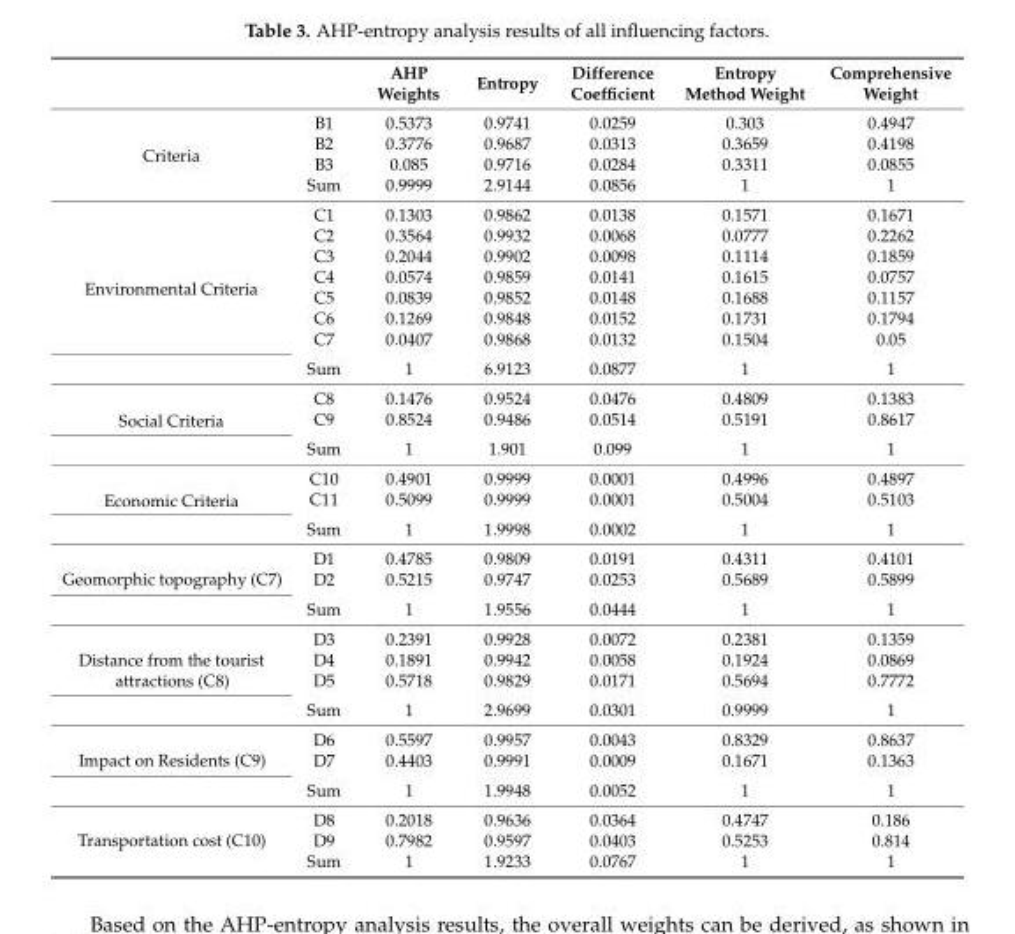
<table><thead><tr><td></td><td></td><td>AHP Weights</td><td>Entropy</td><td>Difference Coefficient</td><td>Entropy Method Weight</td><td>Comprehensive Weight</td></tr></thead><tbody><tr><td rowspan="4">Criteria</td><td>B1</td><td>0.5373</td><td>0.9741</td><td>0.0259</td><td>0.303</td><td>0.4947</td></tr><tr><td>B2</td><td>0.3776</td><td>0.9687</td><td>0.0313</td><td>0.3659</td><td>0.4198</td></tr><tr><td>B3</td><td>0.085</td><td>0.9716</td><td>0.0284</td><td>0.3311</td><td>0.0855</td></tr><tr><td>Sum</td><td>0.9999</td><td>2.9144</td><td>0.0856</td><td>1</td><td>1</td></tr><tr><td rowspan="8">Environmental Criteria</td><td>C1</td><td>0.1303</td><td>0.9862</td><td>0.0138</td><td>0.1571</td><td>0.1671</td></tr><tr><td>C2</td><td>0.3564</td><td>0.9932</td><td>0.0068</td><td>0.0777</td><td>0.2262</td></tr><tr><td>C3</td><td>0.2044</td><td>0.9902</td><td>0.0098</td><td>0.1114</td><td>0.1859</td></tr><tr><td>C4</td><td>0.0574</td><td>0.9859</td><td>0.0141</td><td>0.1615</td><td>0.0757</td></tr><tr><td>C5</td><td>0.0839</td><td>0.9852</td><td>0.0148</td><td>0.1688</td><td>0.1157</td></tr><tr><td>C6</td><td>0.1269</td><td>0.9848</td><td>0.0152</td><td>0.1731</td><td>0.1794</td></tr><tr><td>C7</td><td>0.0407</td><td>0.9868</td><td>0.0132</td><td>0.1504</td><td>0.05</td></tr><tr><td>Sum</td><td>1</td><td>6.9123</td><td>0.0877</td><td>1</td><td>1</td></tr><tr><td rowspan="3">Social Criteria</td><td>C8</td><td>0.1476</td><td>0.9524</td><td>0.0476</td><td>0.4809</td><td>0.1383</td></tr><tr><td>C9</td><td>0.8524</td><td>0.9486</td><td>0.0514</td><td>0.5191</td><td>0.8617</td></tr><tr><td>Sum</td><td>1</td><td>1.901</td><td>0.099</td><td>1</td><td>1</td></tr><tr><td rowspan="3">Economic Criteria</td><td>C10</td><td>0.4901</td><td>0.9999</td><td>0.0001</td><td>0.4996</td><td>0.4897</td></tr><tr><td>C11</td><td>0.5099</td><td>0.9999</td><td>0.0001</td><td>0.5004</td><td>0.5103</td></tr><tr><td>Sum</td><td>1</td><td>1.9998</td><td>0.0002</td><td>1</td><td>1</td></tr><tr><td rowspan="3">Geomorphic topography (C7)</td><td>D1</td><td>0.4785</td><td>0.9809</td><td>0.0191</td><td>0.4311</td><td>0.4101</td></tr><tr><td>D2</td><td>0.5215</td><td>0.9747</td><td>0.0253</td><td>0.5689</td><td>0.5899</td></tr><tr><td>Sum</td><td>1</td><td>1.9556</td><td>0.0444</td><td>1</td><td>1</td></tr><tr><td rowspan="4">Distance from the tourist attractions (C8)</td><td>D3</td><td>0.2391</td><td>0.9928</td><td>0.0072</td><td>0.2381</td><td>0.1359</td></tr><tr><td>D4</td><td>0.1891</td><td>0.9942</td><td>0.0058</td><td>0.1924</td><td>0.0869</td></tr><tr><td>D5</td><td>0.5718</td><td>0.9829</td><td>0.0171</td><td>0.5694</td><td>0.7772</td></tr><tr><td>Sum</td><td>1</td><td>2.9699</td><td>0.0301</td><td>0.9999</td><td>1</td></tr><tr><td rowspan="3">Impact on Residents (C9)</td><td>D6</td><td>0.5597</td><td>0.9957</td><td>0.0043</td><td>0.8329</td><td>0.8637</td></tr><tr><td>D7</td><td>0.4403</td><td>0.9991</td><td>0.0009</td><td>0.1671</td><td>0.1363</td></tr><tr><td>Sum</td><td>1</td><td>1.9948</td><td>0.0052</td><td>1</td><td>1</td></tr><tr><td rowspan="3">Transportation cost (C10)</td><td>D8</td><td>0.2018</td><td>0.9636</td><td>0.0364</td><td>0.4747</td><td>0.186</td></tr><tr><td>D9</td><td>0.7982</td><td>0.9597</td><td>0.0403</td><td>0.5253</td><td>0.814</td></tr><tr><td>Sum</td><td>1</td><td>1.9233</td><td>0.0767</td><td>1</td><td>1</td></tr></tbody></table>